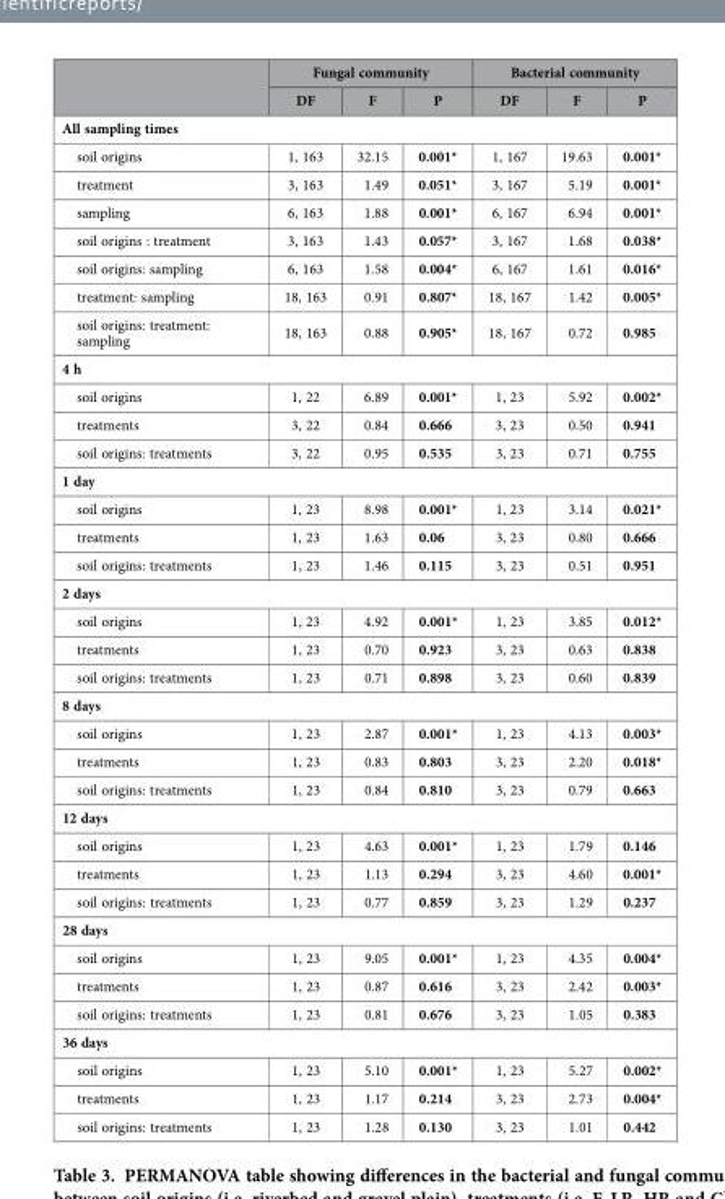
<table><thead><tr><td rowspan="2"></td><td colspan="3">Fungal community</td><td colspan="3">Bacterial community</td></tr><tr><td>DF</td><td>F</td><td>P</td><td>DF</td><td>F</td><td>P</td></tr></thead><tbody><tr><td colspan="7">All sampling times</td></tr><tr><td>soil origins</td><td>1, 163</td><td>32.15</td><td>0.001*</td><td>1, 167</td><td>19.63</td><td>0.001*</td></tr><tr><td>treatment</td><td>3, 163</td><td>1.49</td><td>0.051*</td><td>3, 167</td><td>5.19</td><td>0.001*</td></tr><tr><td>sampling</td><td>6, 163</td><td>1.88</td><td>0.001*</td><td>6, 167</td><td>6.94</td><td>0.001*</td></tr><tr><td>soil origins : treatment</td><td>3, 163</td><td>1.43</td><td>0.057*</td><td>3, 167</td><td>1.68</td><td>0.038*</td></tr><tr><td>soil origins: sampling</td><td>6, 163</td><td>1.58</td><td>0.004*</td><td>6, 167</td><td>1.61</td><td>0.016*</td></tr><tr><td>treatment: sampling</td><td>18, 163</td><td>0.91</td><td>0.807*</td><td>18, 167</td><td>1.42</td><td>0.005*</td></tr><tr><td>soil origins: treatment: sampling</td><td>18, 163</td><td>0.88</td><td>0.905*</td><td>18, 167</td><td>0.72</td><td>0.985</td></tr><tr><td colspan="7">4 h</td></tr><tr><td>soil origins</td><td>1, 22</td><td>6.89</td><td>0.001*</td><td>1, 23</td><td>5.92</td><td>0.002*</td></tr><tr><td>treatments</td><td>3, 22</td><td>0.84</td><td>0.666</td><td>3, 23</td><td>0.50</td><td>0.941</td></tr><tr><td>soil origins: treatments</td><td>3, 22</td><td>0.95</td><td>0.535</td><td>3, 23</td><td>0.71</td><td>0.755</td></tr><tr><td colspan="7">1 day</td></tr><tr><td>soil origins</td><td>1, 23</td><td>8.98</td><td>0.001*</td><td>1, 23</td><td>3.14</td><td>0.021*</td></tr><tr><td>treatments</td><td>1, 23</td><td>1.63</td><td>0.06</td><td>3, 23</td><td>0.80</td><td>0.666</td></tr><tr><td>soil origins: treatments</td><td>1, 23</td><td>1.46</td><td>0.115</td><td>3, 23</td><td>0.51</td><td>0.951</td></tr><tr><td colspan="7">2 days</td></tr><tr><td>soil origins</td><td>1, 23</td><td>4.92</td><td>0.001*</td><td>1, 23</td><td>3.85</td><td>0.012*</td></tr><tr><td>treatments</td><td>1, 23</td><td>0.70</td><td>0.923</td><td>3, 23</td><td>0.63</td><td>0.838</td></tr><tr><td>soil origins: treatments</td><td>1, 23</td><td>0.71</td><td>0.898</td><td>3, 23</td><td>0.60</td><td>0.839</td></tr><tr><td colspan="7">8 days</td></tr><tr><td>soil origins</td><td>1, 23</td><td>2.87</td><td>0.001*</td><td>1, 23</td><td>4.13</td><td>0.003*</td></tr><tr><td>treatments</td><td>1, 23</td><td>0.83</td><td>0.803</td><td>3, 23</td><td>2.20</td><td>0.018*</td></tr><tr><td>soil origins: treatments</td><td>1, 23</td><td>0.84</td><td>0.810</td><td>3, 23</td><td>0.79</td><td>0.663</td></tr><tr><td colspan="7">12 days</td></tr><tr><td>soil origins</td><td>1, 23</td><td>4.63</td><td>0.001*</td><td>1, 23</td><td>1.79</td><td>0.146</td></tr><tr><td>treatments</td><td>1, 23</td><td>1.13</td><td>0.294</td><td>3, 23</td><td>4.60</td><td>0.001*</td></tr><tr><td>soil origins: treatments</td><td>1, 23</td><td>0.77</td><td>0.859</td><td>3, 23</td><td>1.29</td><td>0.237</td></tr><tr><td colspan="7">28 days</td></tr><tr><td>soil origins</td><td>1, 23</td><td>9.05</td><td>0.001*</td><td>1, 23</td><td>4.35</td><td>0.004*</td></tr><tr><td>treatments</td><td>1, 23</td><td>0.87</td><td>0.616</td><td>3, 23</td><td>2.42</td><td>0.003*</td></tr><tr><td>soil origins: treatments</td><td>1, 23</td><td>0.81</td><td>0.676</td><td>3, 23</td><td>1.05</td><td>0.383</td></tr><tr><td colspan="7">36 days</td></tr><tr><td>soil origins</td><td>1, 23</td><td>5.10</td><td>0.001*</td><td>1, 23</td><td>5.27</td><td>0.002*</td></tr><tr><td>treatments</td><td>1, 23</td><td>1.17</td><td>0.214</td><td>3, 23</td><td>2.73</td><td>0.004*</td></tr><tr><td>soil origins: treatments</td><td>1, 23</td><td>1.28</td><td>0.130</td><td>3, 23</td><td>1.01</td><td>0.442</td></tr></tbody></table>